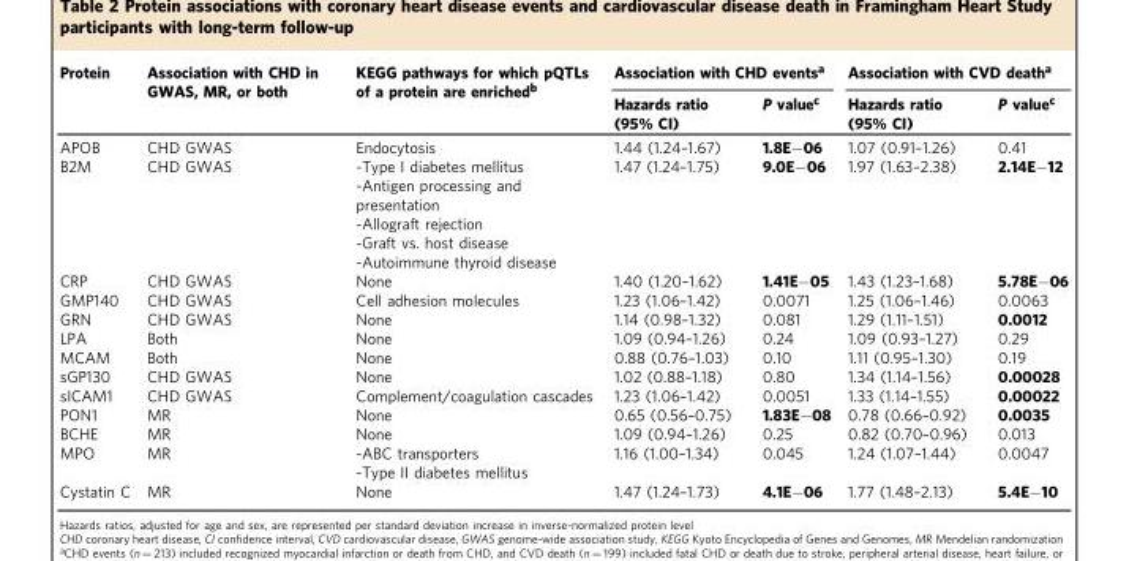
<table><thead><tr><td rowspan="2">Protein</td><td rowspan="2">Association with CHD in GWAS, MR, or both</td><td rowspan="2">KEGG pathways for which pQTLs of a protein are enriched<sup>b</sup></td><td colspan="2">Association with CHD events<sup>a</sup></td><td colspan="2">Association with CVD death<sup>a</sup></td></tr><tr><td>Hazards ratio (95% CI)</td><td>P value<sup>c</sup></td><td>Hazards ratio (95% CI)</td><td>P value<sup>c</sup></td></tr></thead><tbody><tr><td>APOB</td><td>CHD GWAS</td><td>Endocytosis</td><td>1.44 (1.24–1.67)</td><td>1.8E−06</td><td>1.07 (0.91–1.26)</td><td>0.41</td></tr><tr><td>B2M</td><td>CHD GWAS</td><td>-Type I diabetes mellitus -Antigen processing and presentation -Allograft rejection -Graft vs. host disease -Autoimmune thyroid disease</td><td>1.47 (1.24–1.75)</td><td>9.0E−06</td><td>1.97 (1.63–2.38)</td><td>2.14E−12</td></tr><tr><td>CRP</td><td>CHD GWAS</td><td>None</td><td>1.40 (1.20–1.62)</td><td>1.41E−05</td><td>1.43 (1.23–1.68)</td><td>5.78E−06</td></tr><tr><td>GMP140</td><td>CHD GWAS</td><td>Cell adhesion molecules</td><td>1.23 (1.06–1.42)</td><td>0.0071</td><td>1.25 (1.06–1.46)</td><td>0.0063</td></tr><tr><td>GRN</td><td>CHD GWAS</td><td>None</td><td>1.14 (0.98–1.32)</td><td>0.081</td><td>1.29 (1.11–1.51)</td><td>0.0012</td></tr><tr><td>LPA</td><td>Both</td><td>None</td><td>1.09 (0.94–1.26)</td><td>0.24</td><td>1.09 (0.93–1.27)</td><td>0.29</td></tr><tr><td>MCAM</td><td>Both</td><td>None</td><td>0.88 (0.76–1.03)</td><td>0.10</td><td>1.11 (0.95–1.30)</td><td>0.19</td></tr><tr><td>sGP130</td><td>CHD GWAS</td><td>None</td><td>1.02 (0.88–1.18)</td><td>0.80</td><td>1.34 (1.14–1.56)</td><td>0.00028</td></tr><tr><td>sICAM1</td><td>CHD GWAS</td><td>Complement/coagulation cascades</td><td>1.23 (1.06–1.42)</td><td>0.0051</td><td>1.33 (1.14–1.55)</td><td>0.00022</td></tr><tr><td>PON1</td><td>MR</td><td>None</td><td>0.65 (0.56–0.75)</td><td>1.83E−08</td><td>0.78 (0.66–0.92)</td><td>0.0035</td></tr><tr><td>BCHE</td><td>MR</td><td>None</td><td>1.09 (0.94–1.26)</td><td>0.25</td><td>0.82 (0.70–0.96)</td><td>0.013</td></tr><tr><td>MPO</td><td>MR</td><td>-ABC transporters -Type II diabetes mellitus</td><td>1.16 (1.00–1.34)</td><td>0.045</td><td>1.24 (1.07–1.44)</td><td>0.0047</td></tr><tr><td>Cystatin C</td><td>MR</td><td>None</td><td>1.47 (1.24–1.73)</td><td>4.1E−06</td><td>1.77 (1.48–2.13)</td><td>5.4E−10</td></tr></tbody></table>